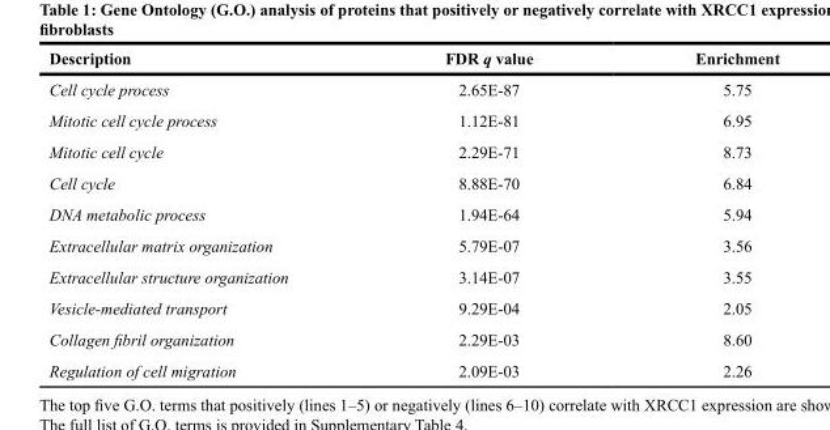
<table><thead><tr><td>Description</td><td>FDR q value</td><td>Enrichment</td></tr></thead><tbody><tr><td>Cell cycle process</td><td>2.65E-87</td><td>5.75</td></tr><tr><td>Mitotic cell cycle process</td><td>1.12E-81</td><td>6.95</td></tr><tr><td>Mitotic cell cycle</td><td>2.29E-71</td><td>8.73</td></tr><tr><td>Cell cycle</td><td>8.88E-70</td><td>6.84</td></tr><tr><td>DNA metabolic process</td><td>1.94E-64</td><td>5.94</td></tr><tr><td>Extracellular matrix organization</td><td>5.79E-07</td><td>3.56</td></tr><tr><td>Extracellular structure organization</td><td>3.14E-07</td><td>3.55</td></tr><tr><td>Vesicle-mediated transport</td><td>9.29E-04</td><td>2.05</td></tr><tr><td>Collagen fibril organization</td><td>2.29E-03</td><td>8.60</td></tr><tr><td>Regulation of cell migration</td><td>2.09E-03</td><td>2.26</td></tr></tbody></table>